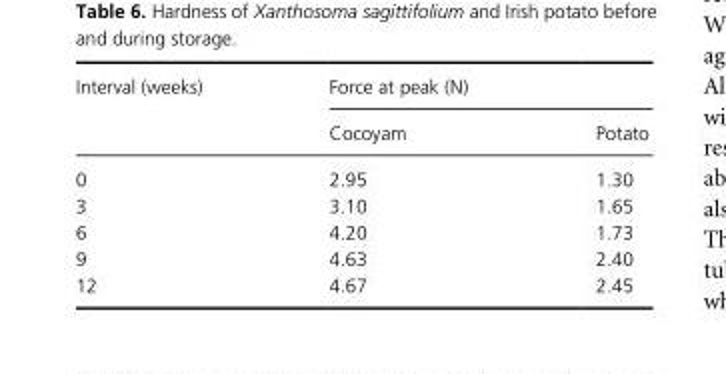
<table><thead><tr><td rowspan="2">Interval (weeks)</td><td colspan="2">Force at peak (N)</td></tr><tr><td>Cocoyam</td><td>Potato</td></tr></thead><tbody><tr><td>0</td><td>2.95</td><td>1.30</td></tr><tr><td>3</td><td>3.10</td><td>1.65</td></tr><tr><td>6</td><td>4.20</td><td>1.73</td></tr><tr><td>9</td><td>4.63</td><td>2.40</td></tr><tr><td>12</td><td>4.67</td><td>2.45</td></tr></tbody></table>